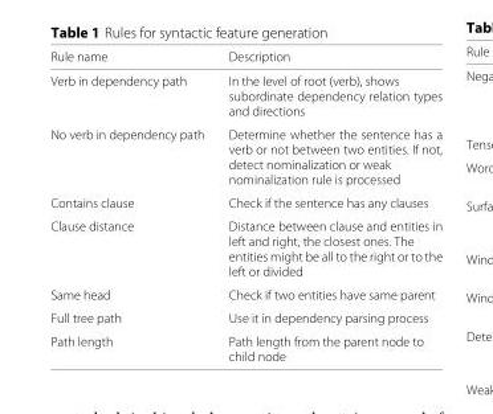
<table><thead><tr><td>Rule name</td><td>Description</td></tr></thead><tbody><tr><td>Verb in dependency path</td><td>In the level of root (verb), shows subordinate dependency relation types and directions</td></tr><tr><td>No verb in dependency path</td><td>Determine whether the sentence has a verb or not between two entities. If not, detect nominalization or weak nominalization rule is processed</td></tr><tr><td>Contains clause</td><td>Check if the sentence has any clauses</td></tr><tr><td>Clause distance</td><td>Distance between clause and entities in left and right, the closest ones. The entities might be all to the right or to the left or divided</td></tr><tr><td>Same head</td><td>Check if two entities have same parent</td></tr><tr><td>Full tree path</td><td>Use it in dependency parsing process</td></tr><tr><td>Path length</td><td>Path length from the parent node to child node</td></tr></tbody></table>